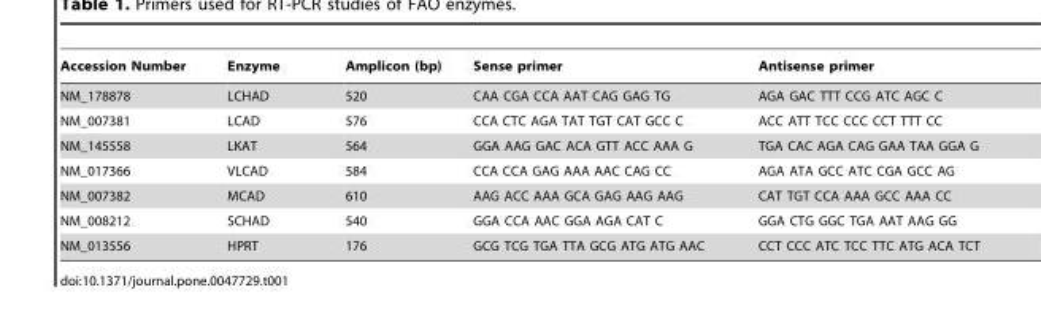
<table><thead><tr><td>Accession Number</td><td>Enzyme</td><td>Amplicon (bp)</td><td>Sense primer</td><td>Antisense primer</td></tr></thead><tbody><tr><td>NM_178878</td><td>LCHAD</td><td>520</td><td>CAA CGA CCA AAT CAG GAG TG</td><td>AGA GAC TTT CCG ATC AGC C</td></tr><tr><td>NM_007381</td><td>LCAD</td><td>576</td><td>CCA CTC AGA TAT TGT CAT GCC C</td><td>ACC ATT TCC CCC CCT TTT CC</td></tr><tr><td>NM_145558</td><td>LKAT</td><td>564</td><td>GGA AAG GAC ACA GTT ACC AAA G</td><td>TGA CAC AGA CAG GAA TAA GGA G</td></tr><tr><td>NM_017366</td><td>VLCAD</td><td>584</td><td>CCA CCA GAG AAA AAC CAG CC</td><td>AGA ATA GCC ATC CGA GCC AG</td></tr><tr><td>NM_007382</td><td>MCAD</td><td>610</td><td>AAG ACC AAA GCA GAG AAG AAG</td><td>CAT TGT CCA AAA GCC AAA CC</td></tr><tr><td>NM_008212</td><td>SCHAD</td><td>540</td><td>GGA CCA AAC GGA AGA CAT C</td><td>GGA CTG GGC TGA AAT AAG GG</td></tr><tr><td>NM_013556</td><td>HPRT</td><td>176</td><td>GCG TCG TGA TTA GCG ATG ATG AAC</td><td>CCT CCC ATC TCC TTC ATG ACA TCT</td></tr></tbody></table>